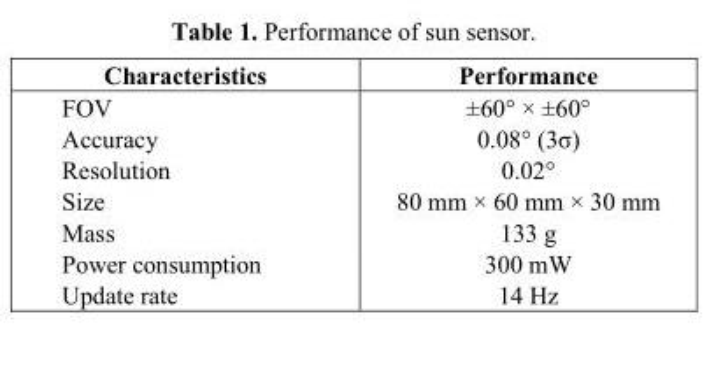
<table><thead><tr><td>Characteristics</td><td>Performance</td></tr></thead><tbody><tr><td>FOV</td><td>±60° × ±60°</td></tr><tr><td>Accuracy</td><td>0.08° (3σ)</td></tr><tr><td>Resolution</td><td>0.02°</td></tr><tr><td>Size</td><td>80 mm × 60 mm × 30 mm</td></tr><tr><td>Mass</td><td>133 g</td></tr><tr><td>Power consumption</td><td>300 mW</td></tr><tr><td>Update rate</td><td>14 Hz</td></tr></tbody></table>